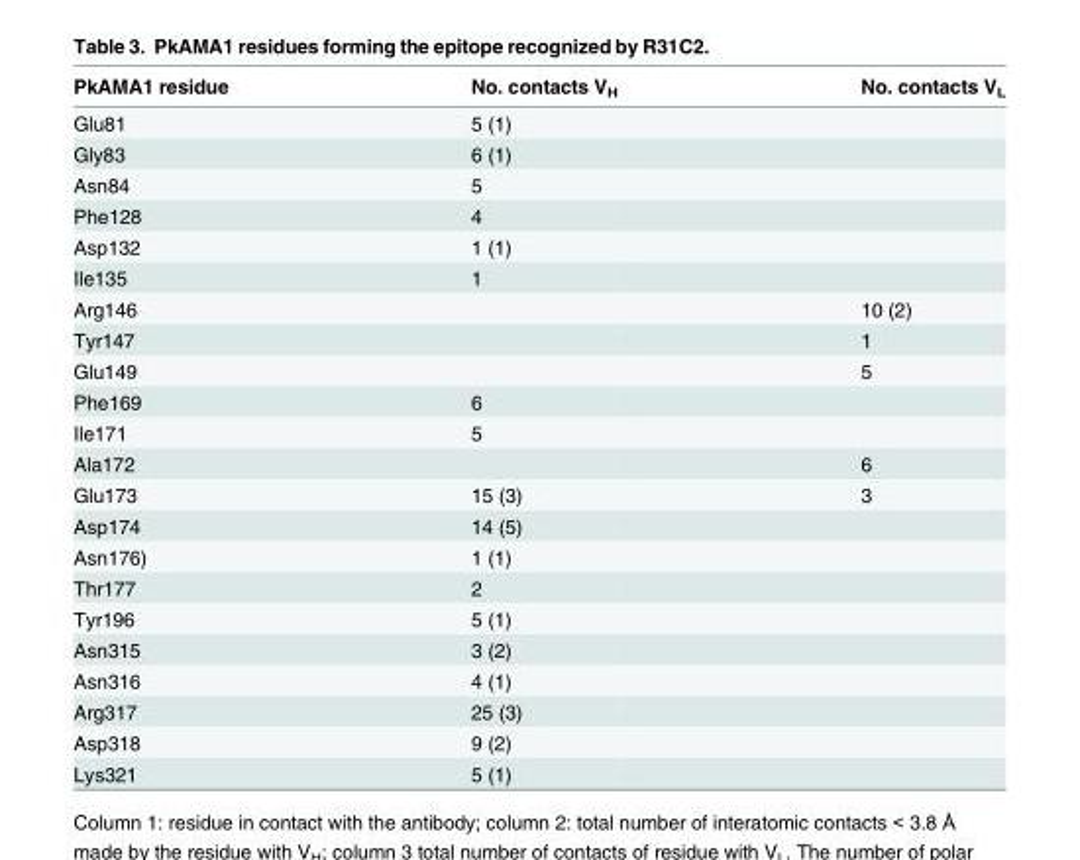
<table><thead><tr><td>PkAMA1 residue</td><td>No. contacts V<sub>H</sub></td><td>No. contacts V<sub>L</sub></td></tr></thead><tbody><tr><td>Glu81</td><td>5 (1)</td><td></td></tr><tr><td>Gly83</td><td>6 (1)</td><td></td></tr><tr><td>Asn84</td><td>5</td><td></td></tr><tr><td>Phe128</td><td>4</td><td></td></tr><tr><td>Asp132</td><td>1 (1)</td><td></td></tr><tr><td>Ile135</td><td>1</td><td></td></tr><tr><td>Arg146</td><td></td><td>10 (2)</td></tr><tr><td>Tyr147</td><td></td><td>1</td></tr><tr><td>Glu149</td><td></td><td>5</td></tr><tr><td>Phe169</td><td>6</td><td></td></tr><tr><td>Ile171</td><td>5</td><td></td></tr><tr><td>Ala172</td><td></td><td>6</td></tr><tr><td>Glu173</td><td>15 (3)</td><td>3</td></tr><tr><td>Asp174</td><td>14 (5)</td><td></td></tr><tr><td>Asn176)</td><td>1 (1)</td><td></td></tr><tr><td>Thr177</td><td>2</td><td></td></tr><tr><td>Tyr196</td><td>5 (1)</td><td></td></tr><tr><td>Asn315</td><td>3 (2)</td><td></td></tr><tr><td>Asn316</td><td>4 (1)</td><td></td></tr><tr><td>Arg317</td><td>25 (3)</td><td></td></tr><tr><td>Asp318</td><td>9 (2)</td><td></td></tr><tr><td>Lys321</td><td>5 (1)</td><td></td></tr></tbody></table>